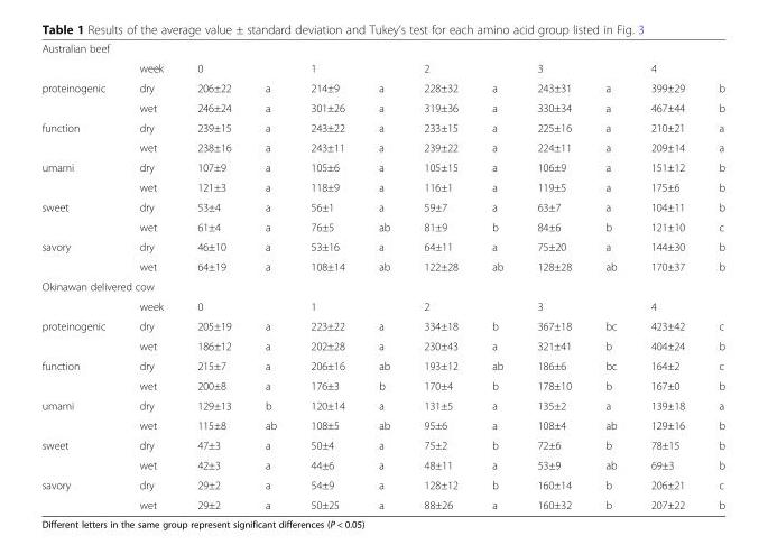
<table><tbody><tr><td colspan="12">Australian beef</td></tr><tr><td></td><td>week</td><td colspan="2">0</td><td colspan="2">1</td><td colspan="2">2</td><td colspan="2">3</td><td colspan="2">4</td></tr><tr><td rowspan="2">proteinogenic</td><td>dry</td><td>206±22</td><td>a</td><td>214±9</td><td>a</td><td>228±32</td><td>a</td><td>243±31</td><td>a</td><td>399±29</td><td>b</td></tr><tr><td>wet</td><td>246±24</td><td>a</td><td>301±26</td><td>a</td><td>319±36</td><td>a</td><td>330±34</td><td>a</td><td>467±44</td><td>b</td></tr><tr><td rowspan="2">function</td><td>dry</td><td>239±15</td><td>a</td><td>243±22</td><td>a</td><td>233±15</td><td>a</td><td>225±16</td><td>a</td><td>210±21</td><td>a</td></tr><tr><td>wet</td><td>238±16</td><td>a</td><td>243±11</td><td>a</td><td>239±22</td><td>a</td><td>224±11</td><td>a</td><td>209±14</td><td>a</td></tr><tr><td rowspan="2">umami</td><td>dry</td><td>107±9</td><td>a</td><td>105±6</td><td>a</td><td>105±15</td><td>a</td><td>106±9</td><td>a</td><td>151±12</td><td>b</td></tr><tr><td>wet</td><td>121±3</td><td>a</td><td>118±9</td><td>a</td><td>116±1</td><td>a</td><td>119±5</td><td>a</td><td>175±6</td><td>b</td></tr><tr><td rowspan="2">sweet</td><td>dry</td><td>53±4</td><td>a</td><td>56±1</td><td>a</td><td>59±7</td><td>a</td><td>63±7</td><td>a</td><td>104±11</td><td>b</td></tr><tr><td>wet</td><td>61±4</td><td>a</td><td>76±5</td><td>ab</td><td>81±9</td><td>b</td><td>84±6</td><td>b</td><td>121±10</td><td>c</td></tr><tr><td rowspan="2">savory</td><td>dry</td><td>46±10</td><td>a</td><td>53±16</td><td>a</td><td>64±11</td><td>a</td><td>75±20</td><td>a</td><td>144±30</td><td>b</td></tr><tr><td>wet</td><td>64±19</td><td>a</td><td>108±14</td><td>ab</td><td>122±28</td><td>ab</td><td>128±28</td><td>ab</td><td>170±37</td><td>b</td></tr><tr><td colspan="12">Okinawan delivered cow</td></tr><tr><td></td><td>week</td><td colspan="2">0</td><td colspan="2">1</td><td colspan="2">2</td><td colspan="2">3</td><td colspan="2">4</td></tr><tr><td rowspan="2">proteinogenic</td><td>dry</td><td>205±19</td><td>a</td><td>223±22</td><td>a</td><td>334±18</td><td>b</td><td>367±18</td><td>bc</td><td>423±42</td><td>c</td></tr><tr><td>wet</td><td>186±12</td><td>a</td><td>202±28</td><td>a</td><td>230±43</td><td>a</td><td>321±41</td><td>b</td><td>404±24</td><td>b</td></tr><tr><td rowspan="2">function</td><td>dry</td><td>215±7</td><td>a</td><td>206±16</td><td>ab</td><td>193±12</td><td>ab</td><td>186±6</td><td>bc</td><td>164±2</td><td>c</td></tr><tr><td>wet</td><td>200±8</td><td>a</td><td>176±3</td><td>b</td><td>170±4</td><td>b</td><td>178±10</td><td>b</td><td>167±0</td><td>b</td></tr><tr><td rowspan="2">umami</td><td>dry</td><td>129±13</td><td>b</td><td>120±14</td><td>a</td><td>131±5</td><td>a</td><td>135±2</td><td>a</td><td>139±18</td><td>a</td></tr><tr><td>wet</td><td>115±8</td><td>ab</td><td>108±5</td><td>ab</td><td>95±6</td><td>a</td><td>108±4</td><td>ab</td><td>129±16</td><td>b</td></tr><tr><td rowspan="2">sweet</td><td>dry</td><td>47±3</td><td>a</td><td>50±4</td><td>a</td><td>75±2</td><td>b</td><td>72±6</td><td>b</td><td>78±15</td><td>b</td></tr><tr><td>wet</td><td>42±3</td><td>a</td><td>44±6</td><td>a</td><td>48±11</td><td>a</td><td>53±9</td><td>ab</td><td>69±3</td><td>b</td></tr><tr><td rowspan="2">savory</td><td>dry</td><td>29±2</td><td>a</td><td>54±9</td><td>a</td><td>128±12</td><td>b</td><td>160±14</td><td>b</td><td>206±21</td><td>c</td></tr><tr><td>wet</td><td>29±2</td><td>a</td><td>50±25</td><td>a</td><td>88±26</td><td>a</td><td>160±32</td><td>b</td><td>207±22</td><td>b</td></tr></tbody></table>